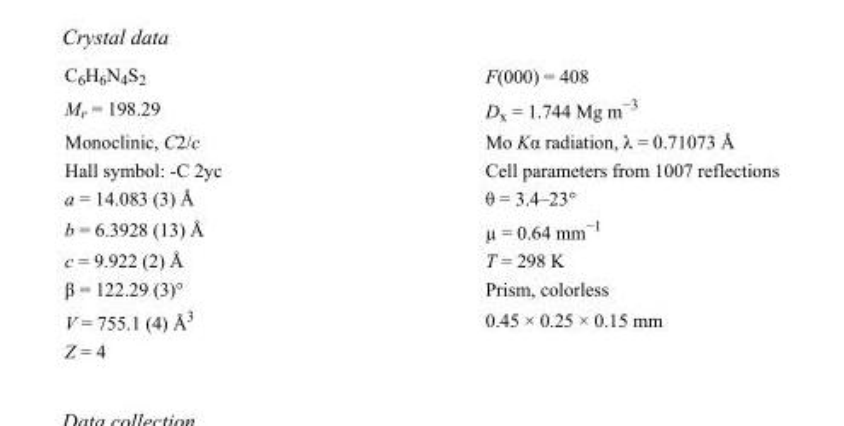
<table><tbody><tr><td>C<sub>6</sub>H<sub>6</sub>N<sub>4</sub>S<sub>2</sub></td><td>F(000) = 408</td></tr><tr><td>M<sub>r</sub> = 198.29</td><td>D<sub>x</sub> = 1.744 Mg m<sup>−3</sup></td></tr><tr><td>Monoclinic, C2/c</td><td>Mo Kα radiation, λ = 0.71073 Å</td></tr><tr><td>Hall symbol: -C 2yc</td><td>Cell parameters from 1007 reflections</td></tr><tr><td>a = 14.083 (3) Å</td><td>θ = 3.4–23°</td></tr><tr><td>b = 6.3928 (13) Å</td><td>µ = 0.64 mm<sup>−1</sup></td></tr><tr><td>c = 9.922 (2) Å</td><td>T = 298 K</td></tr><tr><td>β = 122.29 (3)°</td><td>Prism, colorless</td></tr><tr><td>V = 755.1 (4) Å<sup>3</sup></td><td>0.45 × 0.25 × 0.15 mm</td></tr><tr><td>Z = 4</td><td></td></tr></tbody></table>